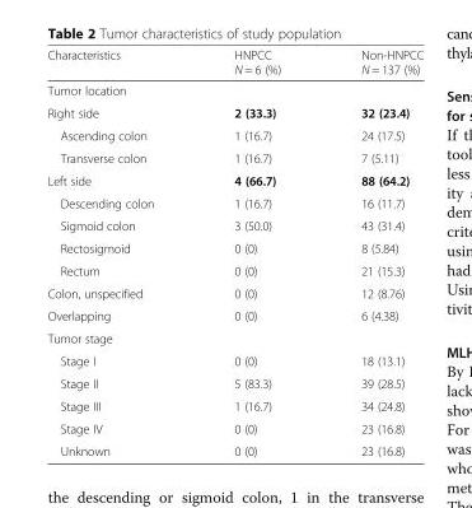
<table><thead><tr><td>Characteristics</td><td>HNPCC N = 6 (%)</td><td>Non-HNPCC N = 137 (%)</td></tr></thead><tbody><tr><td colspan="3">Tumor location</td></tr><tr><td>Right side</td><td>2 (33.3)</td><td>32 (23.4)</td></tr><tr><td>Ascending colon</td><td>1 (16.7)</td><td>24 (17.5)</td></tr><tr><td>Transverse colon</td><td>1 (16.7)</td><td>7 (5.11)</td></tr><tr><td>Left side</td><td>4 (66.7)</td><td>88 (64.2)</td></tr><tr><td>Descending colon</td><td>1 (16.7)</td><td>16 (11.7)</td></tr><tr><td>Sigmoid colon</td><td>3 (50.0)</td><td>43 (31.4)</td></tr><tr><td>Rectosigmoid</td><td>0 (0)</td><td>8 (5.84)</td></tr><tr><td>Rectum</td><td>0 (0)</td><td>21 (15.3)</td></tr><tr><td>Colon, unspecified</td><td>0 (0)</td><td>12 (8.76)</td></tr><tr><td>Overlapping</td><td>0 (0)</td><td>6 (4.38)</td></tr><tr><td colspan="3">Tumor stage</td></tr><tr><td>Stage I</td><td>0 (0)</td><td>18 (13.1)</td></tr><tr><td>Stage II</td><td>5 (83.3)</td><td>39 (28.5)</td></tr><tr><td>Stage III</td><td>1 (16.7)</td><td>34 (24.8)</td></tr><tr><td>Stage IV</td><td>0 (0)</td><td>23 (16.8)</td></tr><tr><td>Unknown</td><td>0 (0)</td><td>23 (16.8)</td></tr></tbody></table>